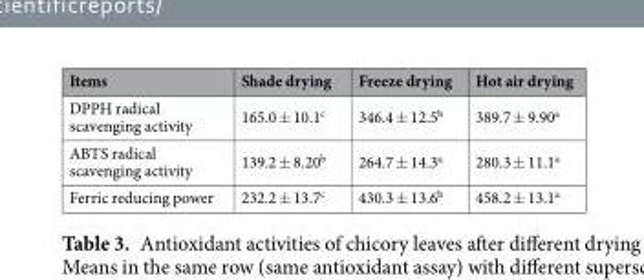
<table><thead><tr><td>Items</td><td>Shade drying</td><td>Freeze drying</td><td>Hot air drying</td></tr></thead><tbody><tr><td>DPPH radical scavenging activity</td><td>165.0 ± 10.1<sup>c</sup></td><td>346.4 ± 12.5<sup>b</sup></td><td>389.7 ± 9.90<sup>a</sup></td></tr><tr><td>ABTS radical scavenging activity</td><td>139.2 ± 8.20<sup>b</sup></td><td>264.7 ± 14.3<sup>a</sup></td><td>280.3 ± 11.1<sup>a</sup></td></tr><tr><td>Ferric reducing power</td><td>232.2 ± 13.7<sup>c</sup></td><td>430.3 ± 13.6<sup>b</sup></td><td>458.2 ± 13.1<sup>a</sup></td></tr></tbody></table>